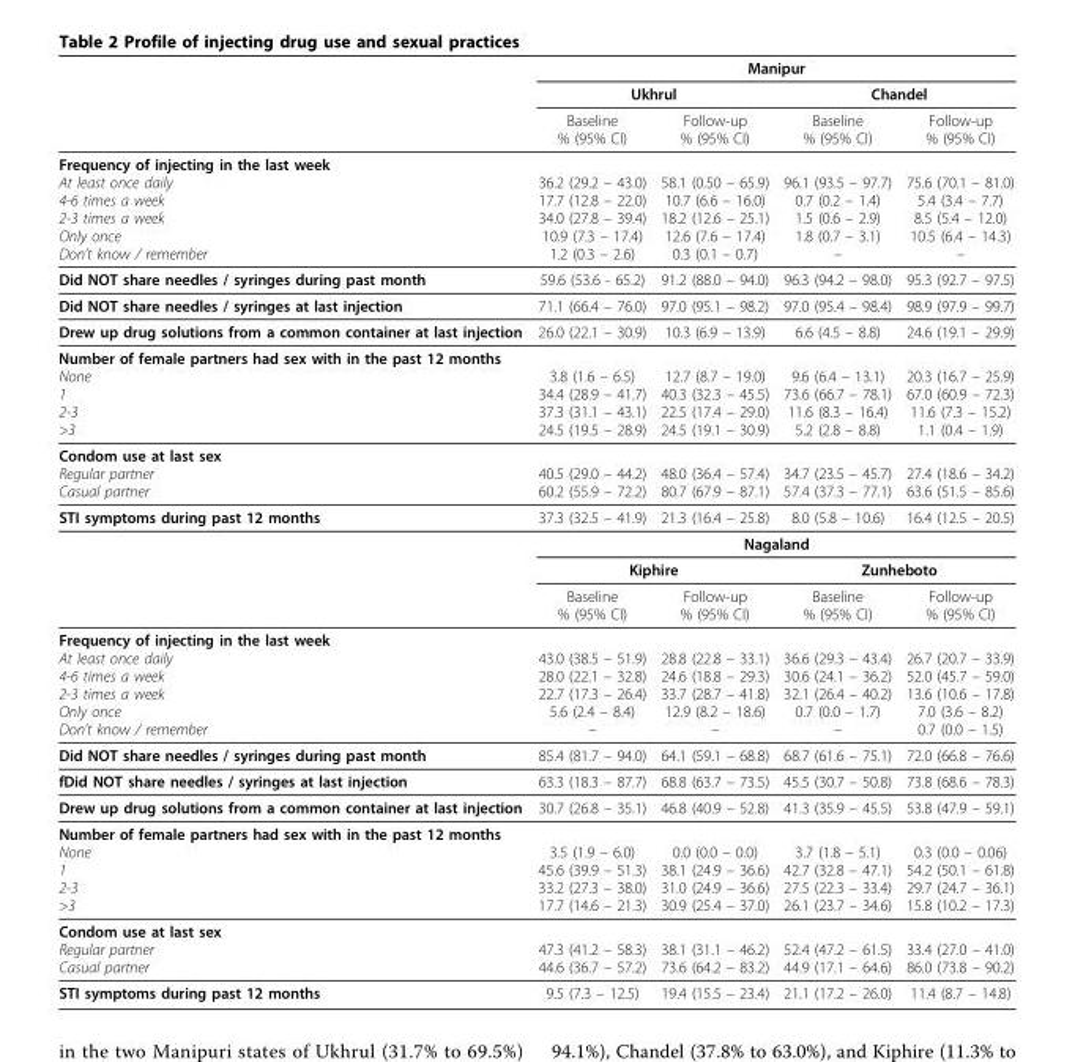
<table><thead><tr><td rowspan="3"></td><td colspan="4">Manipur</td></tr><tr><td colspan="2">Ukhrul</td><td colspan="2">Chandel</td></tr><tr><td>Baseline % (95% CI)</td><td>Follow-up % (95% CI)</td><td>Baseline % (95% CI)</td><td>Follow-up % (95% CI)</td></tr></thead><tbody><tr><td>Frequency of injecting in the last week At least once daily 4-6 times a week 2-3 times a week Only once Don’t know / remember</td><td>36.2 (29.2 – 43.0) 17.7 (12.8 – 22.0) 34.0 (27.8 – 39.4) 10.9 (7.3 – 17.4) 1.2 (0.3 – 2.6)</td><td>58.1 (0.50 – 65.9) 10.7 (6.6 – 16.0) 18.2 (12.6 – 25.1) 12.6 (7.6 – 17.4) 0.3 (0.1 – 0.7)</td><td>96.1 (93.5 – 97.7) 0.7 (0.2 – 1.4) 1.5 (0.6 – 2.9) 1.8 (0.7 – 3.1) –</td><td>75.6 (70.1 – 81.0) 5.4 (3.4 – 7.7) 8.5 (5.4 – 12.0) 10.5 (6.4 – 14.3) –</td></tr><tr><td>Did NOT share needles / syringes during past month</td><td>59.6 (53.6 - 65.2)</td><td>91.2 (88.0 – 94.0)</td><td>96.3 (94.2 – 98.0)</td><td>95.3 (92.7 – 97.5)</td></tr><tr><td>Did NOT share needles / syringes at last injection</td><td>71.1 (66.4 – 76.0)</td><td>97.0 (95.1 – 98.2)</td><td>97.0 (95.4 – 98.4)</td><td>98.9 (97.9 – 99.7)</td></tr><tr><td>Drew up drug solutions from a common container at last injection</td><td>26.0 (22.1 – 30.9)</td><td>10.3 (6.9 – 13.9)</td><td>6.6 (4.5 – 8.8)</td><td>24.6 (19.1 – 29.9)</td></tr><tr><td>Number of female partners had sex with in the past 12 months None 1 2-3 &gt;3</td><td>3.8 (1.6 – 6.5) 34.4 (28.9 – 41.7) 37.3 (31.1 – 43.1) 24.5 (19.5 – 28.9)</td><td>12.7 (8.7 – 19.0) 40.3 (32.3 – 45.5) 22.5 (17.4 – 29.0) 24.5 (19.1 – 30.9)</td><td>9.6 (6.4 – 13.1) 73.6 (66.7 – 78.1) 11.6 (8.3 – 16.4) 5.2 (2.8 – 8.8)</td><td>20.3 (16.7 – 25.9) 67.0 (60.9 – 72.3) 11.6 (7.3 – 15.2) 1.1 (0.4 – 1.9)</td></tr><tr><td>Condom use at last sex Regular partner Casual partner</td><td>40.5 (29.0 – 44.2) 60.2 (55.9 – 72.2)</td><td>48.0 (36.4 – 57.4) 80.7 (67.9 – 87.1)</td><td>34.7 (23.5 – 45.7) 57.4 (37.3 – 77.1)</td><td>27.4 (18.6 – 34.2) 63.6 (51.5 – 85.6)</td></tr><tr><td rowspan="4">STI symptoms during past 12 months</td><td>37.3 (32.5 – 41.9)</td><td>21.3 (16.4 – 25.8)</td><td>8.0 (5.8 – 10.6)</td><td>16.4 (12.5 – 20.5)</td></tr><tr><td colspan="4">Nagaland</td></tr><tr><td colspan="2">Kiphire</td><td colspan="2">Zunheboto</td></tr><tr><td>Baseline % (95% CI)</td><td>Follow-up % (95% CI)</td><td>Baseline % (95% CI)</td><td>Follow-up % (95% CI)</td></tr><tr><td>Frequency of injecting in the last week At least once daily 4-6 times a week 2-3 times a week Only once Don’t know / remember</td><td>43.0 (38.5 – 51.9) 28.0 (22.1 – 32.8) 22.7 (17.3 – 26.4) 5.6 (2.4 – 8.4) –</td><td>28.8 (22.8 – 33.1) 24.6 (18.8 – 29.3) 33.7 (28.7 – 41.8) 12.9 (8.2 – 18.6) –</td><td>36.6 (29.3 – 43.4) 30.6 (24.1 – 36.2) 32.1 (26.4 – 40.2) 0.7 (0.0 – 1.7) –</td><td>26.7 (20.7 – 33.9) 52.0 (45.7 – 59.0) 13.6 (10.6 – 17.8) 7.0 (3.6 – 8.2) 0.7 (0.0 – 1.5)</td></tr><tr><td>Did NOT share needles / syringes during past month</td><td>85.4 (81.7 – 94.0)</td><td>64.1 (59.1 – 68.8)</td><td>68.7 (61.6 – 75.1)</td><td>72.0 (66.8 – 76.6)</td></tr><tr><td>fDid NOT share needles / syringes at last injection</td><td>63.3 (18.3 – 87.7)</td><td>68.8 (63.7 – 73.5)</td><td>45.5 (30.7 – 50.8)</td><td>73.8 (68.6 – 78.3)</td></tr><tr><td>Drew up drug solutions from a common container at last injection</td><td>30.7 (26.8 – 35.1)</td><td>46.8 (40.9 – 52.8)</td><td>41.3 (35.9 – 45.5)</td><td>53.8 (47.9 – 59.1)</td></tr><tr><td>Number of female partners had sex with in the past 12 months None 1 2-3 &gt;3</td><td>3.5 (1.9 – 6.0) 45.6 (39.9 – 51.3) 33.2 (27.3 – 38.0) 17.7 (14.6 – 21.3)</td><td>0.0 (0.0 – 0.0) 38.1 (24.9 – 36.6) 31.0 (24.9 – 36.6) 30.9 (25.4 – 37.0)</td><td>3.7 (1.8 – 5.1) 42.7 (32.8 – 47.1) 27.5 (22.3 – 33.4) 26.1 (23.7 – 34.6)</td><td>0.3 (0.0 – 0.06) 54.2 (50.1 – 61.8) 29.7 (24.7 – 36.1) 15.8 (10.2 – 17.3)</td></tr><tr><td>Condom use at last sex Regular partner Casual partner</td><td>47.3 (41.2 – 58.3) 44.6 (36.7 – 57.2)</td><td>38.1 (31.1 – 46.2) 73.6 (64.2 – 83.2)</td><td>52.4 (47.2 – 61.5) 44.9 (17.1 – 64.6)</td><td>33.4 (27.0 – 41.0) 86.0 (73.8 – 90.2)</td></tr><tr><td>STI symptoms during past 12 months</td><td>9.5 (7.3 – 12.5)</td><td>19.4 (15.5 – 23.4)</td><td>21.1 (17.2 – 26.0)</td><td>11.4 (8.7 – 14.8)</td></tr></tbody></table>